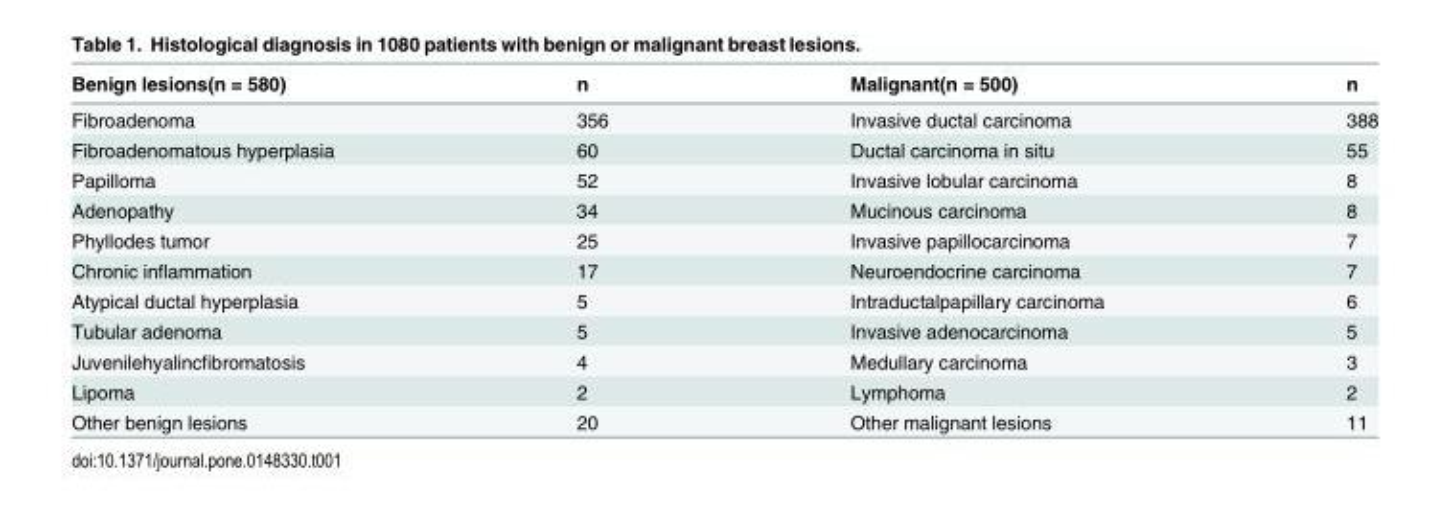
<table><thead><tr><td>Benign lesions(n = 580)</td><td>n</td><td>Malignant(n = 500)</td><td>n</td></tr></thead><tbody><tr><td>Fibroadenoma</td><td>356</td><td>Invasive ductal carcinoma</td><td>388</td></tr><tr><td>Fibroadenomatous hyperplasia</td><td>60</td><td>Ductal carcinoma in situ</td><td>55</td></tr><tr><td>Papilloma</td><td>52</td><td>Invasive lobular carcinoma</td><td>8</td></tr><tr><td>Adenopathy</td><td>34</td><td>Mucinous carcinoma</td><td>8</td></tr><tr><td>Phyllodes tumor</td><td>25</td><td>Invasive papillocarcinoma</td><td>7</td></tr><tr><td>Chronic inflammation</td><td>17</td><td>Neuroendocrine carcinoma</td><td>7</td></tr><tr><td>Atypical ductal hyperplasia</td><td>5</td><td>Intraductalpapillary carcinoma</td><td>6</td></tr><tr><td>Tubular adenoma</td><td>5</td><td>Invasive adenocarcinoma</td><td>5</td></tr><tr><td>Juvenilehyalincfibromatosis</td><td>4</td><td>Medullary carcinoma</td><td>3</td></tr><tr><td>Lipoma</td><td>2</td><td>Lymphoma</td><td>2</td></tr><tr><td>Other benign lesions</td><td>20</td><td>Other malignant lesions</td><td>11</td></tr></tbody></table>